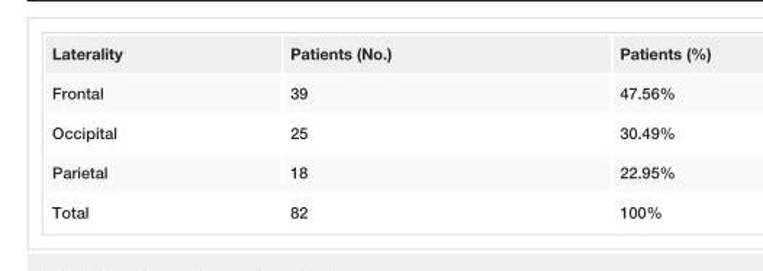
<table><tbody><tr><td>Laterality</td><td>Patients (No.)</td><td>Patients (%)</td></tr><tr><td>Frontal</td><td>39</td><td>47.56%</td></tr><tr><td>Occipital</td><td>25</td><td>30.49%</td></tr><tr><td>Parietal</td><td>18</td><td>22.95%</td></tr><tr><td>Total</td><td>82</td><td>100%</td></tr></tbody></table>